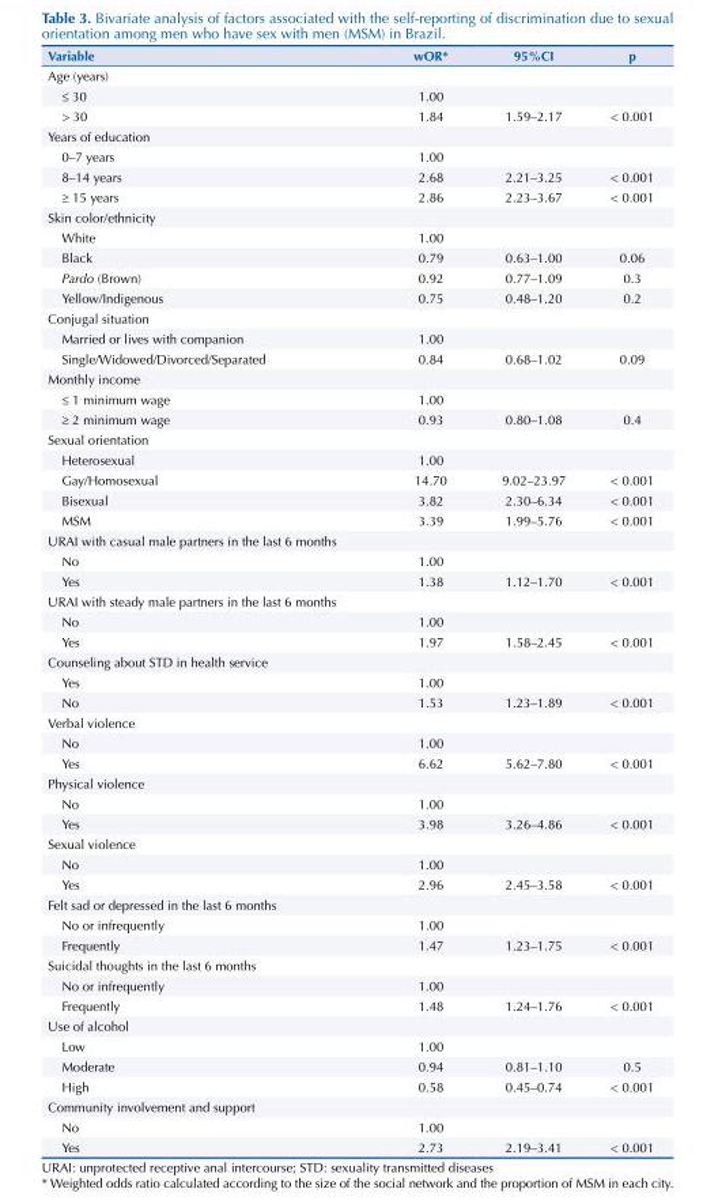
<table><thead><tr><td>Variable</td><td>wOR*</td><td>95%CI</td><td>p</td></tr></thead><tbody><tr><td colspan="4">Age (years)</td></tr><tr><td>≤ 30</td><td>1.00</td><td></td><td></td></tr><tr><td>&gt; 30</td><td>1.84</td><td>1.59–2.17</td><td>&lt; 0.001</td></tr><tr><td colspan="4">Years of education</td></tr><tr><td>0–7 years</td><td>1.00</td><td></td><td></td></tr><tr><td>8–14 years</td><td>2.68</td><td>2.21–3.25</td><td>&lt; 0.001</td></tr><tr><td>≥ 15 years</td><td>2.86</td><td>2.23–3.67</td><td>&lt; 0.001</td></tr><tr><td colspan="4">Skin color/ethnicity</td></tr><tr><td>White</td><td>1.00</td><td></td><td></td></tr><tr><td>Black</td><td>0.79</td><td>0.63–1.00</td><td>0.06</td></tr><tr><td>Pardo (Brown)</td><td>0.92</td><td>0.77–1.09</td><td>0.3</td></tr><tr><td>Yellow/Indigenous</td><td>0.75</td><td>0.48–1.20</td><td>0.2</td></tr><tr><td colspan="4">Conjugal situation</td></tr><tr><td>Married or lives with companion</td><td>1.00</td><td></td><td></td></tr><tr><td>Single/Widowed/Divorced/Separated</td><td>0.84</td><td>0.68–1.02</td><td>0.09</td></tr><tr><td colspan="4">Monthly income</td></tr><tr><td>≤ 1 minimum wage</td><td>1.00</td><td></td><td></td></tr><tr><td>≥ 2 minimum wage</td><td>0.93</td><td>0.80–1.08</td><td>0.4</td></tr><tr><td colspan="4">Sexual orientation</td></tr><tr><td>Heterosexual</td><td>1.00</td><td></td><td></td></tr><tr><td>Gay/Homosexual</td><td>14.70</td><td>9.02–23.97</td><td>&lt; 0.001</td></tr><tr><td>Bisexual</td><td>3.82</td><td>2.30–6.34</td><td>&lt; 0.001</td></tr><tr><td>MSM</td><td>3.39</td><td>1.99–5.76</td><td>&lt; 0.001</td></tr><tr><td colspan="4">URAI with casual male partners in the last 6 months</td></tr><tr><td>No</td><td>1.00</td><td></td><td></td></tr><tr><td>Yes</td><td>1.38</td><td>1.12–1.70</td><td>&lt; 0.001</td></tr><tr><td colspan="4">URAI with steady male partners in the last 6 months</td></tr><tr><td>No</td><td>1.00</td><td></td><td></td></tr><tr><td>Yes</td><td>1.97</td><td>1.58–2.45</td><td>&lt; 0.001</td></tr><tr><td colspan="4">Counseling about STD in health service</td></tr><tr><td>Yes</td><td>1.00</td><td></td><td></td></tr><tr><td>No</td><td>1.53</td><td>1.23–1.89</td><td>&lt; 0.001</td></tr><tr><td colspan="4">Verbal violence</td></tr><tr><td>No</td><td>1.00</td><td></td><td></td></tr><tr><td>Yes</td><td>6.62</td><td>5.62–7.80</td><td>&lt; 0.001</td></tr><tr><td colspan="4">Physical violence</td></tr><tr><td>No</td><td>1.00</td><td></td><td></td></tr><tr><td>Yes</td><td>3.98</td><td>3.26–4.86</td><td>&lt; 0.001</td></tr><tr><td colspan="4">Sexual violence</td></tr><tr><td>No</td><td>1.00</td><td></td><td></td></tr><tr><td>Yes</td><td>2.96</td><td>2.45–3.58</td><td>&lt; 0.001</td></tr><tr><td colspan="4">Felt sad or depressed in the last 6 months</td></tr><tr><td>No or infrequently</td><td>1.00</td><td></td><td></td></tr><tr><td>Frequently</td><td>1.47</td><td>1.23–1.75</td><td>&lt; 0.001</td></tr><tr><td colspan="4">Suicidal thoughts in the last 6 months</td></tr><tr><td>No or infrequently</td><td>1.00</td><td></td><td></td></tr><tr><td>Frequently</td><td>1.48</td><td>1.24–1.76</td><td>&lt; 0.001</td></tr><tr><td colspan="4">Use of alcohol</td></tr><tr><td>Low</td><td>1.00</td><td></td><td></td></tr><tr><td>Moderate</td><td>0.94</td><td>0.81–1.10</td><td>0.5</td></tr><tr><td>High</td><td>0.58</td><td>0.45–0.74</td><td>&lt; 0.001</td></tr><tr><td colspan="4">Community involvement and support</td></tr><tr><td>No</td><td>1.00</td><td></td><td></td></tr><tr><td>Yes</td><td>2.73</td><td>2.19–3.41</td><td>&lt; 0.001</td></tr></tbody></table>